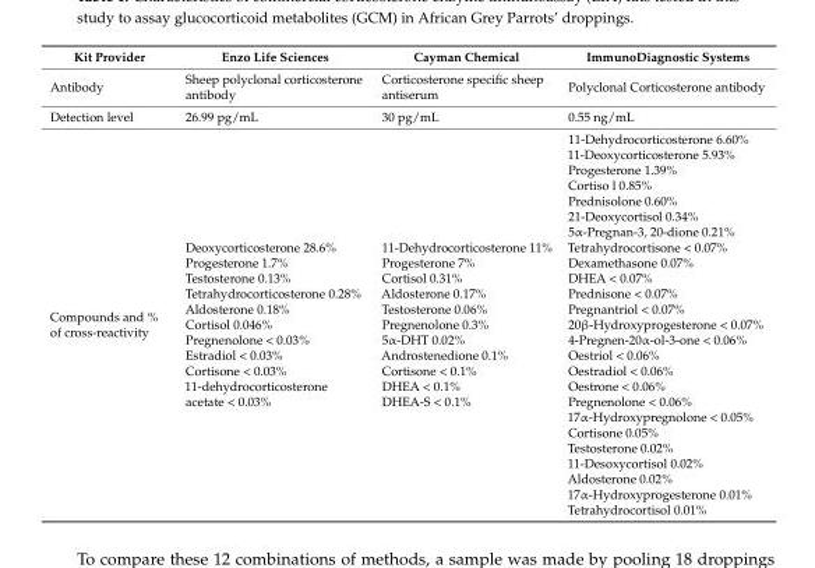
<table><thead><tr><td>Kit Provider</td><td>Enzo Life Sciences</td><td>Cayman Chemical</td><td>ImmunoDiagnostic Systems</td></tr></thead><tbody><tr><td>Antibody</td><td>Sheep polyclonal corticosterone antibody</td><td>Corticosterone specific sheep antiserum</td><td>Polyclonal Corticosterone antibody</td></tr><tr><td>Detection level</td><td>26.99 pg/mL</td><td>30 pg/mL</td><td>0.55 ng/mL</td></tr><tr><td>Compounds and % of cross-reactivity</td><td>Deoxycorticosterone 28.6% Progesterone 1.7% Testosterone 0.13% Tetrahydrocorticosterone 0.28% Aldosterone 0.18% Cortisol 0.046% Pregnenolone &lt; 0.03% Estradiol &lt; 0.03% Cortisone &lt; 0.03% 11-dehydrocorticosterone acetate &lt; 0.03%</td><td>11-Dehydrocorticosterone 11% Progesterone 7% Cortisol 0.31% Aldosterone 0.17% Testosterone 0.06% Pregnenolone 0.3% 5α-DHT 0.02% Androstenedione 0.1% Cortisone &lt; 0.1% DHEA &lt; 0.1% DHEA-S &lt; 0.1%</td><td>11-Dehydrocorticosterone 6.60% 11-Deoxycorticosterone 5.93% Progesterone 1.39% Cortiso l 0.85% Prednisolone 0.60% 21-Deoxycortisol 0.34% 5α-Pregnan-3, 20-dione 0.21% Tetrahydrocortisone &lt; 0.07% Dexamethasone 0.07% DHEA &lt; 0.07% Prednisone &lt; 0.07% Pregnantriol &lt; 0.07% 20β-Hydroxyprogesterone &lt; 0.07% 4-Pregnen-20α-ol-3-one &lt; 0.06% Oestriol &lt; 0.06% Oestradiol &lt; 0.06% Oestrone &lt; 0.06% Pregnenolone &lt; 0.06% 17α-Hydroxypregnolone &lt; 0.05% Cortisone 0.05% Testosterone 0.02% 11-Desoxycortisol 0.02% Aldosterone 0.02% 17α-Hydroxyprogesterone 0.01% Tetrahydrocortisol 0.01%</td></tr></tbody></table>